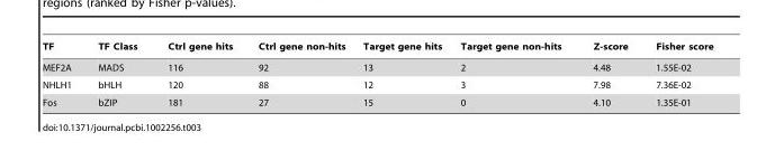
<table><thead><tr><td>TF</td><td>TF Class</td><td>Ctrl gene hits</td><td>Ctrl gene non-hits</td><td>Target gene hits</td><td>Target gene non-hits</td><td>Z-score</td><td>Fisher score</td></tr></thead><tbody><tr><td>MEF2A</td><td>MADS</td><td>116</td><td>92</td><td>13</td><td>2</td><td>4.48</td><td>1.55E-02</td></tr><tr><td>NHLH1</td><td>bHLH</td><td>120</td><td>88</td><td>12</td><td>3</td><td>7.98</td><td>7.36E-02</td></tr><tr><td>Fos</td><td>bZIP</td><td>181</td><td>27</td><td>15</td><td>0</td><td>4.10</td><td>1.35E-01</td></tr></tbody></table>